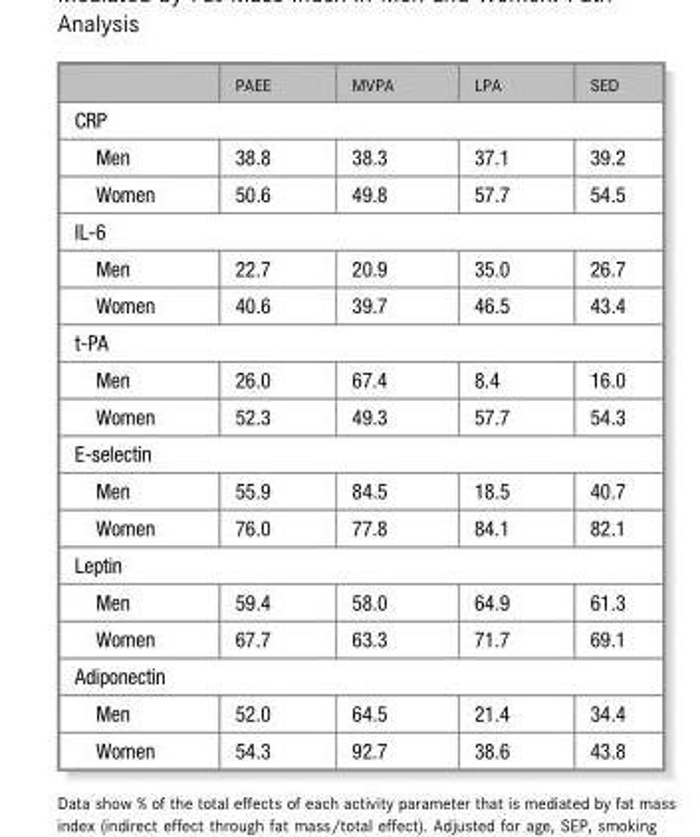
<table><thead><tr><td></td><td>PAEE</td><td>MVPA</td><td>LPA</td><td>SED</td></tr></thead><tbody><tr><td colspan="5">CRP</td></tr><tr><td>Men</td><td>38.8</td><td>38.3</td><td>37.1</td><td>39.2</td></tr><tr><td>Women</td><td>50.6</td><td>49.8</td><td>57.7</td><td>54.5</td></tr><tr><td colspan="5">IL-6</td></tr><tr><td>Men</td><td>22.7</td><td>20.9</td><td>35.0</td><td>26.7</td></tr><tr><td>Women</td><td>40.6</td><td>39.7</td><td>46.5</td><td>43.4</td></tr><tr><td colspan="5">t-PA</td></tr><tr><td>Men</td><td>26.0</td><td>67.4</td><td>8.4</td><td>16.0</td></tr><tr><td>Women</td><td>52.3</td><td>49.3</td><td>57.7</td><td>54.3</td></tr><tr><td colspan="5">E-selectin</td></tr><tr><td>Men</td><td>55.9</td><td>84.5</td><td>18.5</td><td>40.7</td></tr><tr><td>Women</td><td>76.0</td><td>77.8</td><td>84.1</td><td>82.1</td></tr><tr><td colspan="5">Leptin</td></tr><tr><td>Men</td><td>59.4</td><td>58.0</td><td>64.9</td><td>61.3</td></tr><tr><td>Women</td><td>67.7</td><td>63.3</td><td>71.7</td><td>69.1</td></tr><tr><td colspan="5">Adiponectin</td></tr><tr><td>Men</td><td>52.0</td><td>64.5</td><td>21.4</td><td>34.4</td></tr><tr><td>Women</td><td>54.3</td><td>92.7</td><td>38.6</td><td>43.8</td></tr></tbody></table>